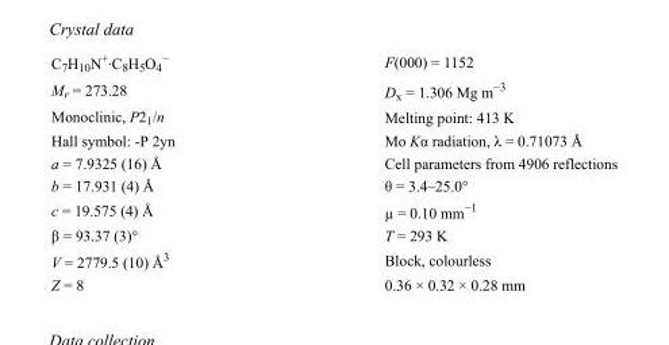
<table><tbody><tr><td>C<sub>7</sub>H<sub>10</sub>N<sup>+</sup>·C<sub>8</sub>H<sub>5</sub>O<sub>4</sub> <sup>−</sup></td><td>F(000) = 1152</td></tr><tr><td>M<sub>r</sub> = 273.28</td><td>D<sub>x</sub> = 1.306 Mg m<sup>−3</sup></td></tr><tr><td>Monoclinic, P2<sub>1</sub>/n</td><td>Melting point: 413 K</td></tr><tr><td>Hall symbol: -P 2yn</td><td>Mo Kα radiation, λ = 0.71073 Å</td></tr><tr><td>a = 7.9325 (16) Å</td><td>Cell parameters from 4906 reflections</td></tr><tr><td>b = 17.931 (4) Å</td><td>θ = 3.4–25.0°</td></tr><tr><td>c = 19.575 (4) Å</td><td>µ = 0.10 mm<sup>−1</sup></td></tr><tr><td>β = 93.37 (3)°</td><td>T = 293 K</td></tr><tr><td>V = 2779.5 (10) Å<sup>3</sup></td><td>Block, colourless</td></tr><tr><td>Z = 8</td><td>0.36 × 0.32 × 0.28 mm</td></tr></tbody></table>